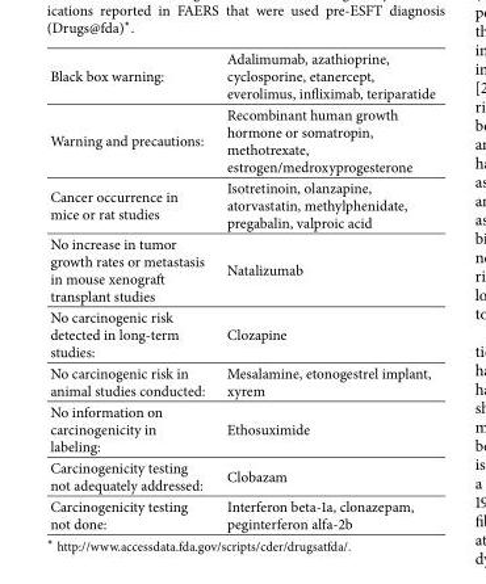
<table><tbody><tr><td>Black box warning:</td><td>Adalimumab, azathioprine, cyclosporine, etanercept, everolimus, infliximab, teriparatide</td></tr><tr><td>Warning and precautions:</td><td>Recombinant human growth hormone or somatropin, methotrexate, estrogen/medroxyprogesterone</td></tr><tr><td>Cancer occurrence in mice or rat studies</td><td>Isotretinoin, olanzapine, atorvastatin, methylphenidate, pregabalin, valproic acid</td></tr><tr><td>No increase in tumor growth rates or metastasis in mouse xenograft transplant studies</td><td>Natalizumab</td></tr><tr><td>No carcinogenic risk detected in long-term studies:</td><td>Clozapine</td></tr><tr><td>No carcinogenic risk in animal studies conducted:</td><td>Mesalamine, etonogestrel implant, xyrem</td></tr><tr><td>No information on carcinogenicity in labeling:</td><td>Ethosuximide</td></tr><tr><td>Carcinogenicity testing not adequately addressed:</td><td>Clobazam</td></tr><tr><td>Carcinogenicity testing not done:</td><td>Interferon beta-1a, clonazepam, peginterferon alfa-2b</td></tr></tbody></table>